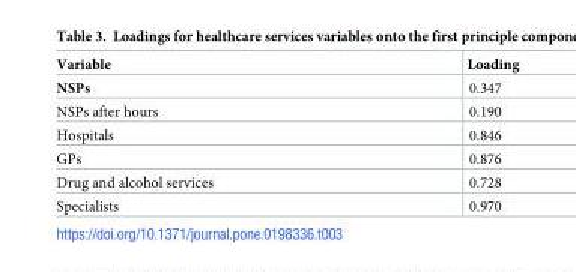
<table><thead><tr><td>Variable</td><td>Loading</td></tr></thead><tbody><tr><td>NSPs</td><td>0.347</td></tr><tr><td>NSPs after hours</td><td>0.190</td></tr><tr><td>Hospitals</td><td>0.846</td></tr><tr><td>GPs</td><td>0.876</td></tr><tr><td>Drug and alcohol services</td><td>0.728</td></tr><tr><td>Specialists</td><td>0.970</td></tr></tbody></table>